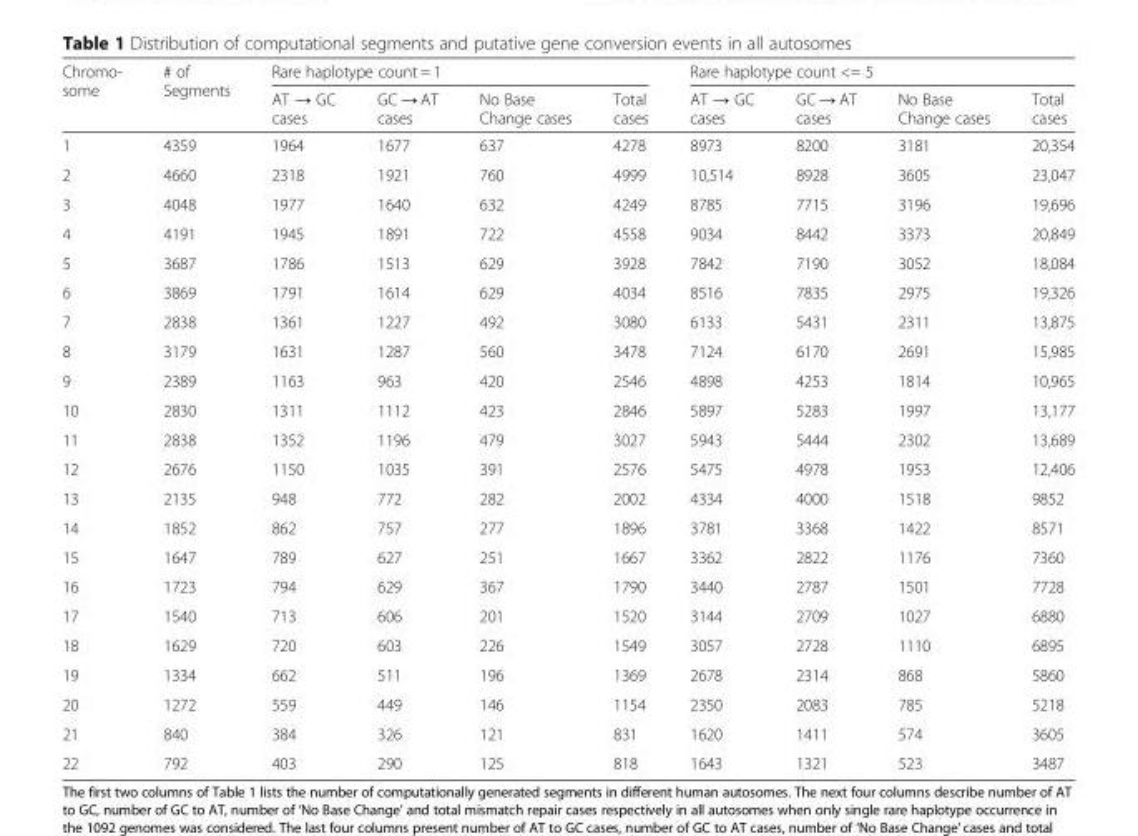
<table><thead><tr><td rowspan="2">Chromo- some</td><td rowspan="2"># of Segments</td><td colspan="4">Rare haplotype count = 1</td><td colspan="4">Rare haplotype count &lt;= 5</td></tr><tr><td>AT → GC cases</td><td>GC → AT cases</td><td>No Base Change cases</td><td>Total cases</td><td>AT → GC cases</td><td>GC → AT cases</td><td>No Base Change cases</td><td>Total cases</td></tr></thead><tbody><tr><td>1</td><td>4359</td><td>1964</td><td>1677</td><td>637</td><td>4278</td><td>8973</td><td>8200</td><td>3181</td><td>20,354</td></tr><tr><td>2</td><td>4660</td><td>2318</td><td>1921</td><td>760</td><td>4999</td><td>10,514</td><td>8928</td><td>3605</td><td>23,047</td></tr><tr><td>3</td><td>4048</td><td>1977</td><td>1640</td><td>632</td><td>4249</td><td>8785</td><td>7715</td><td>3196</td><td>19,696</td></tr><tr><td>4</td><td>4191</td><td>1945</td><td>1891</td><td>722</td><td>4558</td><td>9034</td><td>8442</td><td>3373</td><td>20,849</td></tr><tr><td>5</td><td>3687</td><td>1786</td><td>1513</td><td>629</td><td>3928</td><td>7842</td><td>7190</td><td>3052</td><td>18,084</td></tr><tr><td>6</td><td>3869</td><td>1791</td><td>1614</td><td>629</td><td>4034</td><td>8516</td><td>7835</td><td>2975</td><td>19,326</td></tr><tr><td>7</td><td>2838</td><td>1361</td><td>1227</td><td>492</td><td>3080</td><td>6133</td><td>5431</td><td>2311</td><td>13,875</td></tr><tr><td>8</td><td>3179</td><td>1631</td><td>1287</td><td>560</td><td>3478</td><td>7124</td><td>6170</td><td>2691</td><td>15,985</td></tr><tr><td>9</td><td>2389</td><td>1163</td><td>963</td><td>420</td><td>2546</td><td>4898</td><td>4253</td><td>1814</td><td>10,965</td></tr><tr><td>10</td><td>2830</td><td>1311</td><td>1112</td><td>423</td><td>2846</td><td>5897</td><td>5283</td><td>1997</td><td>13,177</td></tr><tr><td>11</td><td>2838</td><td>1352</td><td>1196</td><td>479</td><td>3027</td><td>5943</td><td>5444</td><td>2302</td><td>13,689</td></tr><tr><td>12</td><td>2676</td><td>1150</td><td>1035</td><td>391</td><td>2576</td><td>5475</td><td>4978</td><td>1953</td><td>12,406</td></tr><tr><td>13</td><td>2135</td><td>948</td><td>772</td><td>282</td><td>2002</td><td>4334</td><td>4000</td><td>1518</td><td>9852</td></tr><tr><td>14</td><td>1852</td><td>862</td><td>757</td><td>277</td><td>1896</td><td>3781</td><td>3368</td><td>1422</td><td>8571</td></tr><tr><td>15</td><td>1647</td><td>789</td><td>627</td><td>251</td><td>1667</td><td>3362</td><td>2822</td><td>1176</td><td>7360</td></tr><tr><td>16</td><td>1723</td><td>794</td><td>629</td><td>367</td><td>1790</td><td>3440</td><td>2787</td><td>1501</td><td>7728</td></tr><tr><td>17</td><td>1540</td><td>713</td><td>606</td><td>201</td><td>1520</td><td>3144</td><td>2709</td><td>1027</td><td>6880</td></tr><tr><td>18</td><td>1629</td><td>720</td><td>603</td><td>226</td><td>1549</td><td>3057</td><td>2728</td><td>1110</td><td>6895</td></tr><tr><td>19</td><td>1334</td><td>662</td><td>511</td><td>196</td><td>1369</td><td>2678</td><td>2314</td><td>868</td><td>5860</td></tr><tr><td>20</td><td>1272</td><td>559</td><td>449</td><td>146</td><td>1154</td><td>2350</td><td>2083</td><td>785</td><td>5218</td></tr><tr><td>21</td><td>840</td><td>384</td><td>326</td><td>121</td><td>831</td><td>1620</td><td>1411</td><td>574</td><td>3605</td></tr><tr><td>22</td><td>792</td><td>403</td><td>290</td><td>125</td><td>818</td><td>1643</td><td>1321</td><td>523</td><td>3487</td></tr></tbody></table>